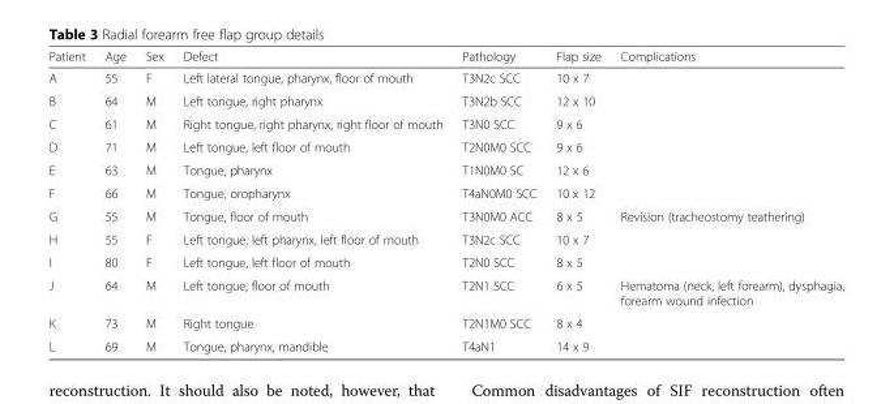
<table><thead><tr><td>Patient</td><td>Age</td><td>Sex</td><td>Defect</td><td>Pathology</td><td>Flap size</td><td>Complications</td></tr></thead><tbody><tr><td>A</td><td>55</td><td>F</td><td>Left lateral tongue, pharynx, floor of mouth</td><td>T3N2c SCC</td><td>10 x 7</td><td></td></tr><tr><td>B</td><td>64</td><td>M</td><td>Left tongue, right pharynx</td><td>T3N2b SCC</td><td>12 x 10</td><td></td></tr><tr><td>C</td><td>61</td><td>M</td><td>Right tongue, right pharynx, right floor of mouth</td><td>T3N0 SCC</td><td>9 x 6</td><td></td></tr><tr><td>D</td><td>71</td><td>M</td><td>Left tongue, left floor of mouth</td><td>T2N0M0 SCC</td><td>9 x 6</td><td></td></tr><tr><td>E</td><td>63</td><td>M</td><td>Tongue, pharynx</td><td>T1N0M0 SC</td><td>12 x 6</td><td></td></tr><tr><td>F</td><td>66</td><td>M</td><td>Tongue, oropharynx</td><td>T4aN0M0 SCC</td><td>10 x 12</td><td></td></tr><tr><td>G</td><td>55</td><td>M</td><td>Tongue, floor of mouth</td><td>T3N0M0 ACC</td><td>8 x 5</td><td>Revision (tracheostomy teathering)</td></tr><tr><td>H</td><td>55</td><td>F</td><td>Left tongue, left pharynx, left floor of mouth</td><td>T3N2c SCC</td><td>10 x 7</td><td></td></tr><tr><td>I</td><td>80</td><td>F</td><td>Left tongue, left floor of mouth</td><td>T2N0 SCC</td><td>8 x 5</td><td></td></tr><tr><td>J</td><td>64</td><td>M</td><td>Left tongue, floor of mouth</td><td>T2N1 SCC</td><td>6 x 5</td><td>Hematoma (neck, left forearm), dysphagia, forearm wound infection</td></tr><tr><td>K</td><td>73</td><td>M</td><td>Right tongue</td><td>T2N1M0 SCC</td><td>8 x 4</td><td></td></tr><tr><td>L</td><td>69</td><td>M</td><td>Tongue, pharynx, mandible</td><td>T4aN1</td><td>14 x 9</td><td></td></tr></tbody></table>